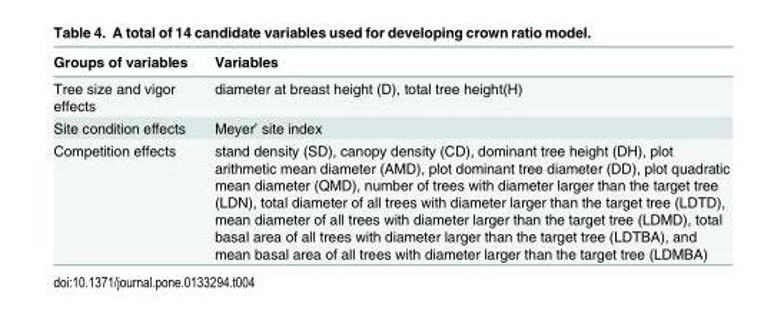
<table><thead><tr><td>Groups of variables</td><td>Variables</td></tr></thead><tbody><tr><td>Tree size and vigor effects</td><td>diameter at breast height (D), total tree height(H)</td></tr><tr><td>Site condition effects</td><td>Meyer’ site index</td></tr><tr><td>Competition effects</td><td>stand density (SD), canopy density (CD), dominant tree height (DH), plot arithmetic mean diameter (AMD), plot dominant tree diameter (DD), plot quadratic mean diameter (QMD), number of trees with diameter larger than the target tree (LDN), total diameter of all trees with diameter larger than the target tree (LDTD), mean diameter of all trees with diameter larger than the target tree (LDMD), total basal area of all trees with diameter larger than the target tree (LDTBA), and mean basal area of all trees with diameter larger than the target tree (LDMBA)</td></tr></tbody></table>